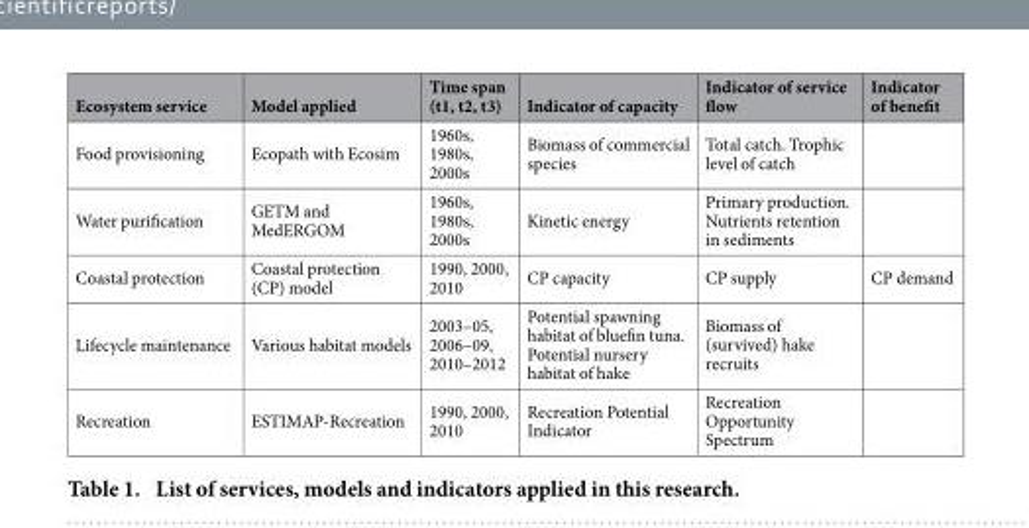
<table><thead><tr><td>Ecosystem service</td><td>Model applied</td><td>Time span (t1, t2, t3)</td><td>Indicator of capacity</td><td>Indicator of service flow</td><td>Indicator of benefit</td></tr></thead><tbody><tr><td>Food provisioning</td><td>Ecopath with Ecosim</td><td>1960s, 1980s, 2000s</td><td>Biomass of commercial species</td><td>Total catch. Trophic level of catch</td><td></td></tr><tr><td>Water purification</td><td>GETM and MedERGOM</td><td>1960s, 1980s, 2000s</td><td>Kinetic energy</td><td>Primary production. Nutrients retention in sediments</td><td></td></tr><tr><td>Coastal protection</td><td>Coastal protection (CP) model</td><td>1990, 2000, 2010</td><td>CP capacity</td><td>CP supply</td><td>CP demand</td></tr><tr><td>Lifecycle maintenance</td><td>Various habitat models</td><td>2003–05, 2006–09, 2010–2012</td><td>Potential spawning habitat of bluefin tuna. Potential nursery habitat of hake</td><td>Biomass of (survived) hake recruits</td><td></td></tr><tr><td>Recreation</td><td>ESTIMAP-Recreation</td><td>1990, 2000, 2010</td><td>Recreation Potential Indicator</td><td>Recreation Opportunity Spectrum</td><td></td></tr></tbody></table>